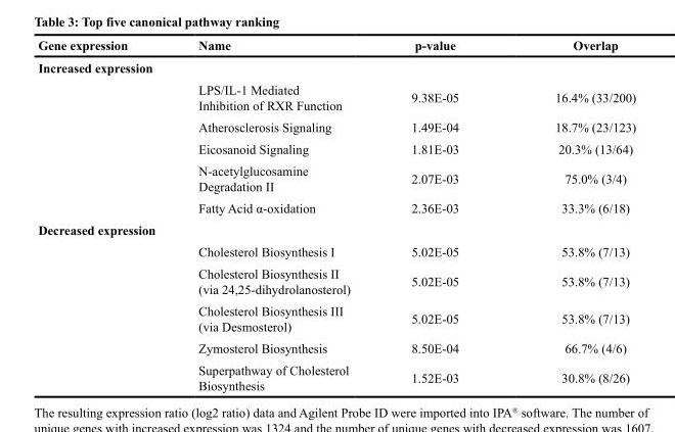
<table><thead><tr><td>Gene expression</td><td>Name</td><td>p-value</td><td>Overlap</td></tr></thead><tbody><tr><td colspan="4">Increased expression</td></tr><tr><td></td><td>LPS/IL-1 Mediated Inhibition of RXR Function</td><td>9.38E-05</td><td>16.4% (33/200)</td></tr><tr><td></td><td>Atherosclerosis Signaling</td><td>1.49E-04</td><td>18.7% (23/123)</td></tr><tr><td></td><td>Eicosanoid Signaling</td><td>1.81E-03</td><td>20.3% (13/64)</td></tr><tr><td></td><td>N-acetylglucosamine Degradation II</td><td>2.07E-03</td><td>75.0% (3/4)</td></tr><tr><td></td><td>Fatty Acid α-oxidation</td><td>2.36E-03</td><td>33.3% (6/18)</td></tr><tr><td colspan="4">Decreased expression</td></tr><tr><td></td><td>Cholesterol Biosynthesis I</td><td>5.02E-05</td><td>53.8% (7/13)</td></tr><tr><td></td><td>Cholesterol Biosynthesis II (via 24,25-dihydrolanosterol)</td><td>5.02E-05</td><td>53.8% (7/13)</td></tr><tr><td></td><td>Cholesterol Biosynthesis III (via Desmosterol)</td><td>5.02E-05</td><td>53.8% (7/13)</td></tr><tr><td></td><td>Zymosterol Biosynthesis</td><td>8.50E-04</td><td>66.7% (4/6)</td></tr><tr><td></td><td>Superpathway of Cholesterol Biosynthesis</td><td>1.52E-03</td><td>30.8% (8/26)</td></tr></tbody></table>